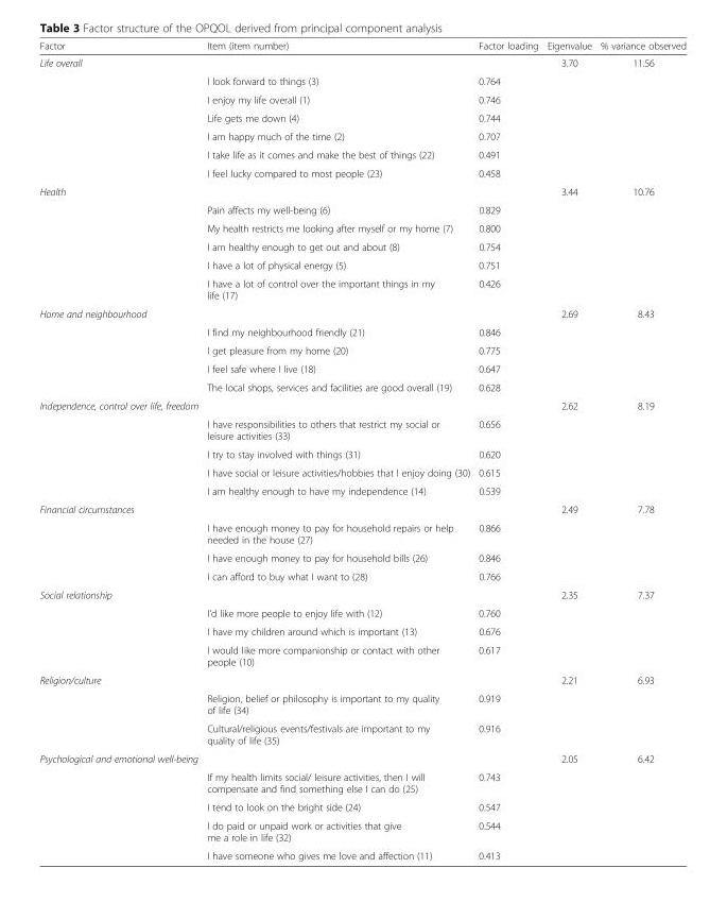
<table><thead><tr><td>Factor</td><td>Item (item number)</td><td>Factor loading</td><td>Eigenvalue</td><td>% variance observed</td></tr></thead><tbody><tr><td rowspan="7">Life overall</td><td></td><td></td><td>3.70</td><td>11.56</td></tr><tr><td>I look forward to things (3)</td><td>0.764</td><td></td><td></td></tr><tr><td>I enjoy my life overall (1)</td><td>0.746</td><td></td><td></td></tr><tr><td>Life gets me down (4)</td><td>0.744</td><td></td><td></td></tr><tr><td>I am happy much of the time (2)</td><td>0.707</td><td></td><td></td></tr><tr><td>I take life as it comes and make the best of things (22)</td><td>0.491</td><td></td><td></td></tr><tr><td>I feel lucky compared to most people (23)</td><td>0.458</td><td></td><td></td></tr><tr><td rowspan="6">Health</td><td></td><td></td><td>3.44</td><td>10.76</td></tr><tr><td>Pain affects my well-being (6)</td><td>0.829</td><td></td><td></td></tr><tr><td>My health restricts me looking after myself or my home (7)</td><td>0.800</td><td></td><td></td></tr><tr><td>I am healthy enough to get out and about (8)</td><td>0.754</td><td></td><td></td></tr><tr><td>I have a lot of physical energy (5)</td><td>0.751</td><td></td><td></td></tr><tr><td>I have a lot of control over the important things in my life (17)</td><td>0.426</td><td></td><td></td></tr><tr><td rowspan="5">Home and neighbourhood</td><td></td><td></td><td>2.69</td><td>8.43</td></tr><tr><td>I find my neighbourhood friendly (21)</td><td>0.846</td><td></td><td></td></tr><tr><td>I get pleasure from my home (20)</td><td>0.775</td><td></td><td></td></tr><tr><td>I feel safe where I live (18)</td><td>0.647</td><td></td><td></td></tr><tr><td>The local shops, services and facilities are good overall (19)</td><td>0.628</td><td></td><td></td></tr><tr><td rowspan="5">Independence, control over life, freedom</td><td></td><td></td><td>2.62</td><td>8.19</td></tr><tr><td>I have responsibilities to others that restrict my social or leisure activities (33)</td><td>0.656</td><td></td><td></td></tr><tr><td>I try to stay involved with things (31)</td><td>0.620</td><td></td><td></td></tr><tr><td>I have social or leisure activities/hobbies that I enjoy doing (30)</td><td>0.615</td><td></td><td></td></tr><tr><td>I am healthy enough to have my independence (14)</td><td>0.539</td><td></td><td></td></tr><tr><td rowspan="4">Financial circumstances</td><td></td><td></td><td>2.49</td><td>7.78</td></tr><tr><td>I have enough money to pay for household repairs or help needed in the house (27)</td><td>0.866</td><td></td><td></td></tr><tr><td>I have enough money to pay for household bills (26)</td><td>0.846</td><td></td><td></td></tr><tr><td>I can afford to buy what I want to (28)</td><td>0.766</td><td></td><td></td></tr><tr><td rowspan="4">Social relationship</td><td></td><td></td><td>2.35</td><td>7.37</td></tr><tr><td>I’d like more people to enjoy life with (12)</td><td>0.760</td><td></td><td></td></tr><tr><td>I have my children around which is important (13)</td><td>0.676</td><td></td><td></td></tr><tr><td>I would like more companionship or contact with other people (10)</td><td>0.617</td><td></td><td></td></tr><tr><td rowspan="3">Religion/culture</td><td></td><td></td><td>2.21</td><td>6.93</td></tr><tr><td>Religion, belief or philosophy is important to my quality of life (34)</td><td>0.919</td><td></td><td></td></tr><tr><td>Cultural/religious events/festivals are important to my quality of life (35)</td><td>0.916</td><td></td><td></td></tr><tr><td rowspan="5">Psychological and emotional well-being</td><td></td><td></td><td>2.05</td><td>6.42</td></tr><tr><td>If my health limits social/ leisure activities, then I will compensate and find something else I can do (25)</td><td>0.743</td><td></td><td></td></tr><tr><td>I tend to look on the bright side (24)</td><td>0.547</td><td></td><td></td></tr><tr><td>I do paid or unpaid work or activities that give me a role in life (32)</td><td>0.544</td><td></td><td></td></tr><tr><td>I have someone who gives me love and affection (11)</td><td>0.413</td><td></td><td></td></tr></tbody></table>